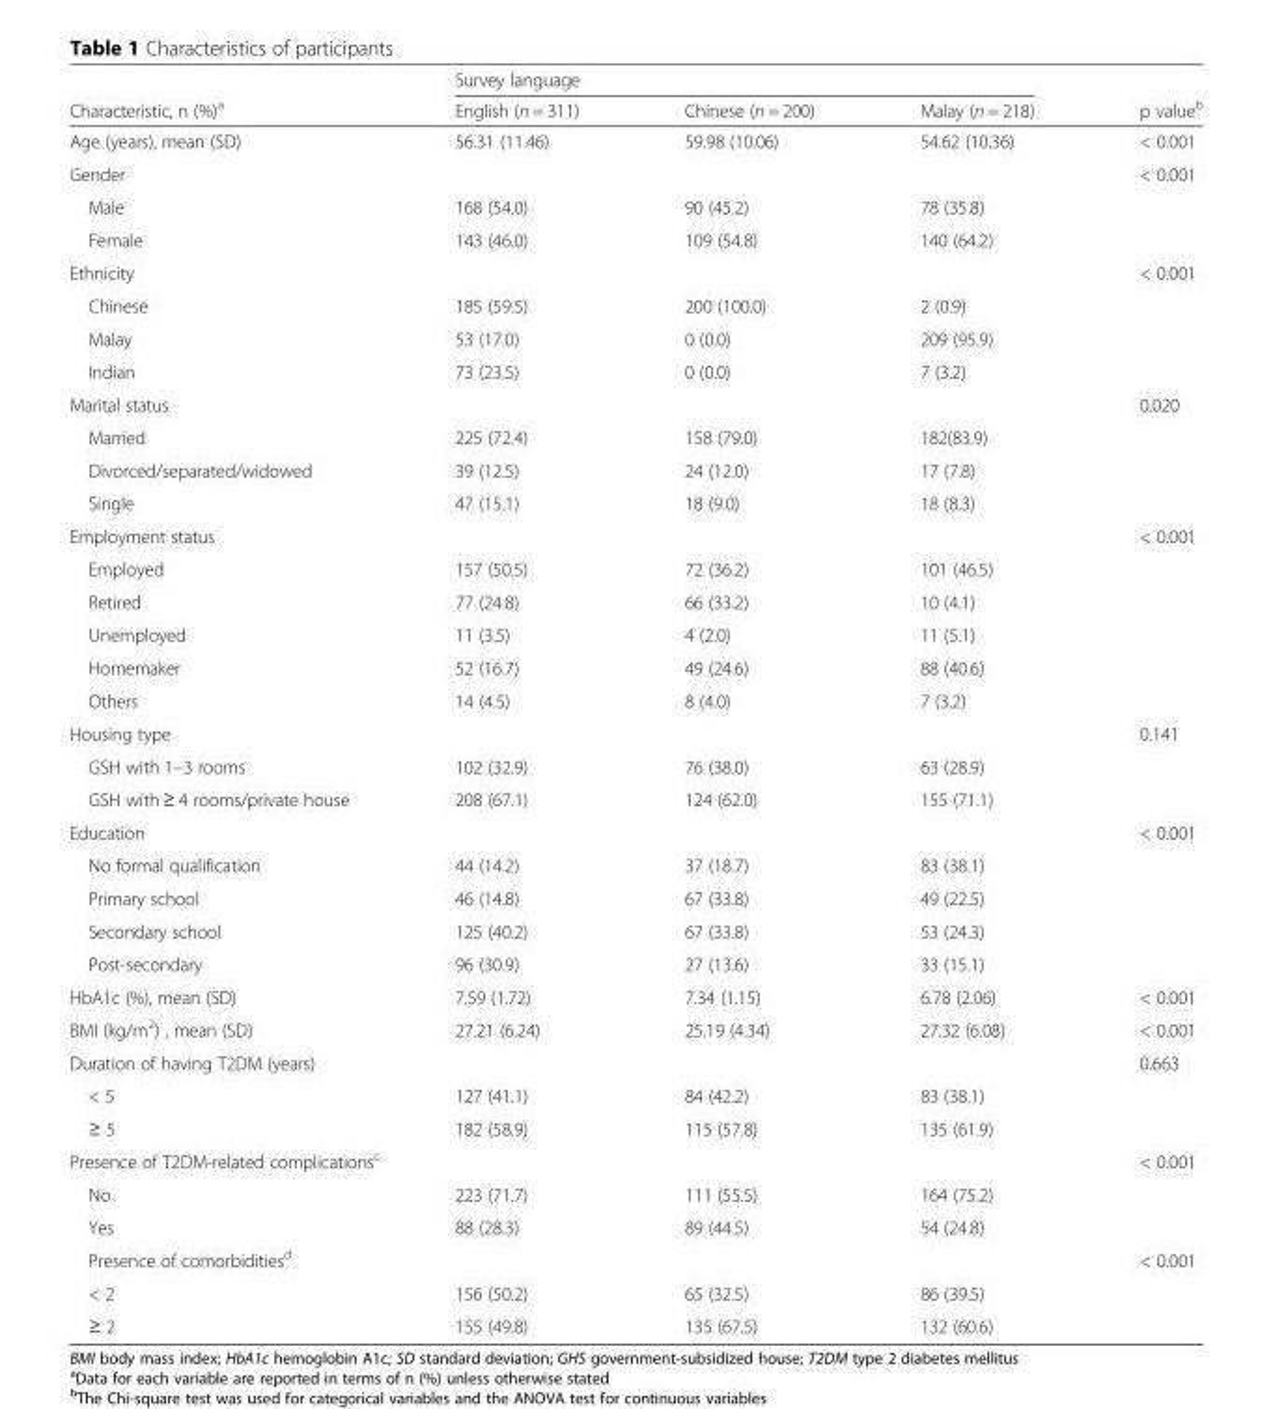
<table><thead><tr><td rowspan="2">Characteristic, n (%)<sup>a</sup></td><td colspan="3">Survey language</td><td rowspan="2">p value<sup>b</sup></td></tr><tr><td>English (n = 311)</td><td>Chinese (n = 200)</td><td>Malay (n = 218)</td></tr></thead><tbody><tr><td>Age (years), mean (SD)</td><td>56.31 (11.46)</td><td>59.98 (10.06)</td><td>54.62 (10.36)</td><td>&lt; 0.001</td></tr><tr><td>Gender</td><td></td><td></td><td></td><td>&lt; 0.001</td></tr><tr><td>Male</td><td>168 (54.0)</td><td>90 (45.2)</td><td>78 (35.8)</td><td></td></tr><tr><td>Female</td><td>143 (46.0)</td><td>109 (54.8)</td><td>140 (64.2)</td><td></td></tr><tr><td>Ethnicity</td><td></td><td></td><td></td><td>&lt; 0.001</td></tr><tr><td>Chinese</td><td>185 (59.5)</td><td>200 (100.0)</td><td>2 (0.9)</td><td></td></tr><tr><td>Malay</td><td>53 (17.0)</td><td>0 (0.0)</td><td>209 (95.9)</td><td></td></tr><tr><td>Indian</td><td>73 (23.5)</td><td>0 (0.0)</td><td>7 (3.2)</td><td></td></tr><tr><td>Marital status</td><td></td><td></td><td></td><td>0.020</td></tr><tr><td>Married</td><td>225 (72.4)</td><td>158 (79.0)</td><td>182(83.9)</td><td></td></tr><tr><td>Divorced/separated/widowed</td><td>39 (12.5)</td><td>24 (12.0)</td><td>17 (7.8)</td><td></td></tr><tr><td>Single</td><td>47 (15.1)</td><td>18 (9.0)</td><td>18 (8.3)</td><td></td></tr><tr><td>Employment status</td><td></td><td></td><td></td><td>&lt; 0.001</td></tr><tr><td>Employed</td><td>157 (50.5)</td><td>72 (36.2)</td><td>101 (46.5)</td><td></td></tr><tr><td>Retired</td><td>77 (24.8)</td><td>66 (33.2)</td><td>10 (4.1)</td><td></td></tr><tr><td>Unemployed</td><td>11 (3.5)</td><td>4 (2.0)</td><td>11 (5.1)</td><td></td></tr><tr><td>Homemaker</td><td>52 (16.7)</td><td>49 (24.6)</td><td>88 (40.6)</td><td></td></tr><tr><td>Others</td><td>14 (4.5)</td><td>8 (4.0)</td><td>7 (3.2)</td><td></td></tr><tr><td>Housing type</td><td></td><td></td><td></td><td>0.141</td></tr><tr><td>GSH with 1–3 rooms</td><td>102 (32.9)</td><td>76 (38.0)</td><td>63 (28.9)</td><td></td></tr><tr><td>GSH with ≥ 4 rooms/private house</td><td>208 (67.1)</td><td>124 (62.0)</td><td>155 (71.1)</td><td></td></tr><tr><td>Education</td><td></td><td></td><td></td><td>&lt; 0.001</td></tr><tr><td>No formal qualification</td><td>44 (14.2)</td><td>37 (18.7)</td><td>83 (38.1)</td><td></td></tr><tr><td>Primary school</td><td>46 (14.8)</td><td>67 (33.8)</td><td>49 (22.5)</td><td></td></tr><tr><td>Secondary school</td><td>125 (40.2)</td><td>67 (33.8)</td><td>53 (24.3)</td><td></td></tr><tr><td>Post-secondary</td><td>96 (30.9)</td><td>27 (13.6)</td><td>33 (15.1)</td><td></td></tr><tr><td>HbA1c (%), mean (SD)</td><td>7.59 (1.72)</td><td>7.34 (1.15)</td><td>6.78 (2.06)</td><td>&lt; 0.001</td></tr><tr><td>BMI (kg/m<sup>2</sup>) , mean (SD)</td><td>27.21 (6.24)</td><td>25.19 (4.34)</td><td>27.32 (6.08)</td><td>&lt; 0.001</td></tr><tr><td>Duration of having T2DM (years)</td><td></td><td></td><td></td><td>0.663</td></tr><tr><td>&lt; 5</td><td>127 (41.1)</td><td>84 (42.2)</td><td>83 (38.1)</td><td></td></tr><tr><td>≥ 5</td><td>182 (58.9)</td><td>115 (57.8)</td><td>135 (61.9)</td><td></td></tr><tr><td colspan="2">Presence of T2DM-related complications<sup>c</sup></td><td></td><td></td><td>&lt; 0.001</td></tr><tr><td>No</td><td>223 (71.7)</td><td>111 (55.5)</td><td>164 (75.2)</td><td></td></tr><tr><td>Yes</td><td>88 (28.3)</td><td>89 (44.5)</td><td>54 (24.8)</td><td></td></tr><tr><td>Presence of comorbidities<sup>d</sup></td><td></td><td></td><td></td><td>&lt; 0.001</td></tr><tr><td>&lt; 2</td><td>156 (50.2)</td><td>65 (32.5)</td><td>86 (39.5)</td><td></td></tr><tr><td>≥ 2</td><td>155 (49.8)</td><td>135 (67.5)</td><td>132 (60.6)</td><td></td></tr></tbody></table>